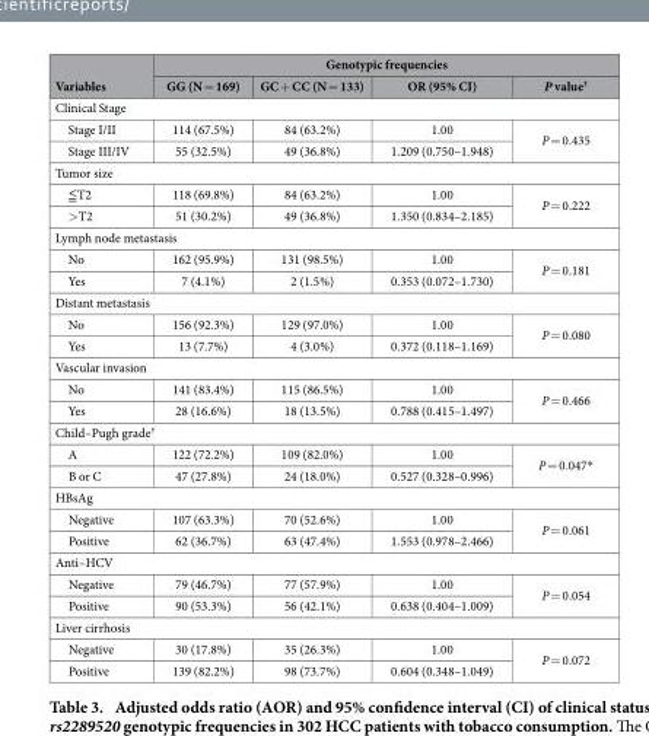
<table><thead><tr><td rowspan="2">Variables</td><td colspan="4">Genotypic frequencies</td></tr><tr><td>GG (N = 169)</td><td>GC + CC (N = 133)</td><td>OR (95% CI)</td><td>P value<sup>†</sup></td></tr></thead><tbody><tr><td colspan="5">Clinical Stage</td></tr><tr><td>Stage I/II</td><td>114 (67.5%)</td><td>84 (63.2%)</td><td>1.00</td><td rowspan="2">P = 0.435</td></tr><tr><td>Stage III/IV</td><td>55 (32.5%)</td><td>49 (36.8%)</td><td>1.209 (0.750–1.948)</td></tr><tr><td colspan="5">Tumor size</td></tr><tr><td>≦ T2</td><td>118 (69.8%)</td><td>84 (63.2%)</td><td>1.00</td><td rowspan="2">P = 0.222</td></tr><tr><td>&gt; T2</td><td>51 (30.2%)</td><td>49 (36.8%)</td><td>1.350 (0.834–2.185)</td></tr><tr><td colspan="5">Lymph node metastasis</td></tr><tr><td>No</td><td>162 (95.9%)</td><td>131 (98.5%)</td><td>1.00</td><td rowspan="2">P = 0.181</td></tr><tr><td>Yes</td><td>7 (4.1%)</td><td>2 (1.5%)</td><td>0.353 (0.072–1.730)</td></tr><tr><td colspan="5">Distant metastasis</td></tr><tr><td>No</td><td>156 (92.3%)</td><td>129 (97.0%)</td><td>1.00</td><td rowspan="2">P = 0.080</td></tr><tr><td>Yes</td><td>13 (7.7%)</td><td>4 (3.0%)</td><td>0.372 (0.118–1.169)</td></tr><tr><td colspan="5">Vascular invasion</td></tr><tr><td>No</td><td>141 (83.4%)</td><td>115 (86.5%)</td><td>1.00</td><td rowspan="2">P = 0.466</td></tr><tr><td>Yes</td><td>28 (16.6%)</td><td>18 (13.5%)</td><td>0.788 (0.415–1.497)</td></tr><tr><td colspan="5">Child–Pugh grade<sup>†</sup></td></tr><tr><td>A</td><td>122 (72.2%)</td><td>109 (82.0%)</td><td>1.00</td><td rowspan="2">P = 0.047*</td></tr><tr><td>B or C</td><td>47 (27.8%)</td><td>24 (18.0%)</td><td>0.527 (0.328–0.996)</td></tr><tr><td colspan="5">HBsAg</td></tr><tr><td>Negative</td><td>107 (63.3%)</td><td>70 (52.6%)</td><td>1.00</td><td rowspan="2">P = 0.061</td></tr><tr><td>Positive</td><td>62 (36.7%)</td><td>63 (47.4%)</td><td>1.553 (0.978–2.466)</td></tr><tr><td colspan="5">Anti–HCV</td></tr><tr><td>Negative</td><td>79 (46.7%)</td><td>77 (57.9%)</td><td>1.00</td><td rowspan="2">P = 0.054</td></tr><tr><td>Positive</td><td>90 (53.3%)</td><td>56 (42.1%)</td><td>0.638 (0.404–1.009)</td></tr><tr><td colspan="5">Liver cirrhosis</td></tr><tr><td>Negative</td><td>30 (17.8%)</td><td>35 (26.3%)</td><td>1.00</td><td rowspan="2">P = 0.072</td></tr><tr><td>Positive</td><td>139 (82.2%)</td><td>98 (73.7%)</td><td>0.604 (0.348–1.049)</td></tr></tbody></table>